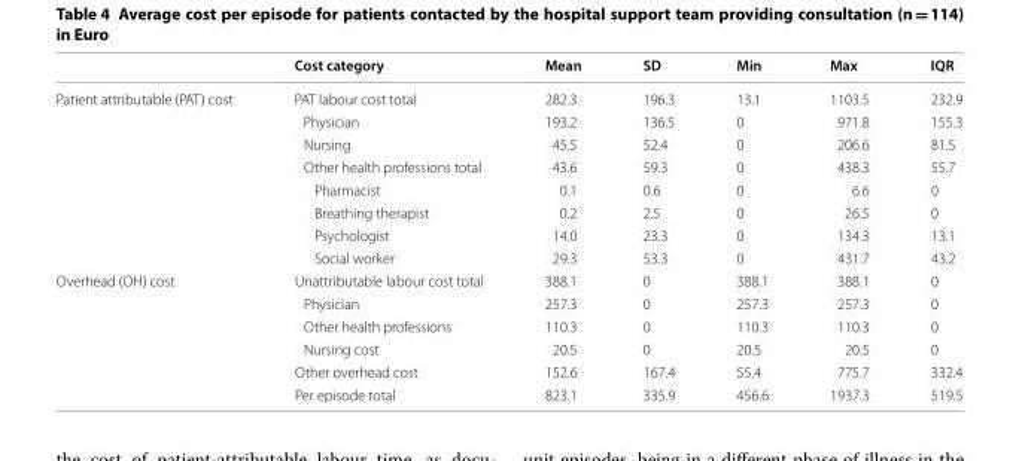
<table><thead><tr><td></td><td>Cost category</td><td>Mean</td><td>SD</td><td>Min</td><td>Max</td><td>IQR</td></tr></thead><tbody><tr><td rowspan="8">Patient attributable (PAT) cost</td><td>PAT labour cost total</td><td>282.3</td><td>196.3</td><td>13.1</td><td>1103.5</td><td>232.9</td></tr><tr><td>Physician</td><td>193.2</td><td>136.5</td><td>0</td><td>971.8</td><td>155.3</td></tr><tr><td>Nursing</td><td>45.5</td><td>52.4</td><td>0</td><td>206.6</td><td>81.5</td></tr><tr><td>Other health professions total</td><td>43.6</td><td>59.3</td><td>0</td><td>438.3</td><td>55.7</td></tr><tr><td>Pharmacist</td><td>0.1</td><td>0.6</td><td>0</td><td>6.6</td><td>0</td></tr><tr><td>Breathing therapist</td><td>0.2</td><td>2.5</td><td>0</td><td>26.5</td><td>0</td></tr><tr><td>Psychologist</td><td>14.0</td><td>23.3</td><td>0</td><td>134.3</td><td>13.1</td></tr><tr><td>Social worker</td><td>29.3</td><td>53.3</td><td>0</td><td>431.7</td><td>43.2</td></tr><tr><td rowspan="6">Overhead (OH) cost</td><td>Unattributable labour cost total</td><td>388.1</td><td>0</td><td>388.1</td><td>388.1</td><td>0</td></tr><tr><td>Physician</td><td>257.3</td><td>0</td><td>257.3</td><td>257.3</td><td>0</td></tr><tr><td>Other health professions</td><td>110.3</td><td>0</td><td>110.3</td><td>110.3</td><td>0</td></tr><tr><td>Nursing cost</td><td>20.5</td><td>0</td><td>20.5</td><td>20.5</td><td>0</td></tr><tr><td>Other overhead cost</td><td>152.6</td><td>167.4</td><td>55.4</td><td>775.7</td><td>332.4</td></tr><tr><td>Per episode total</td><td>823.1</td><td>335.9</td><td>456.6</td><td>1937.3</td><td>519.5</td></tr></tbody></table>